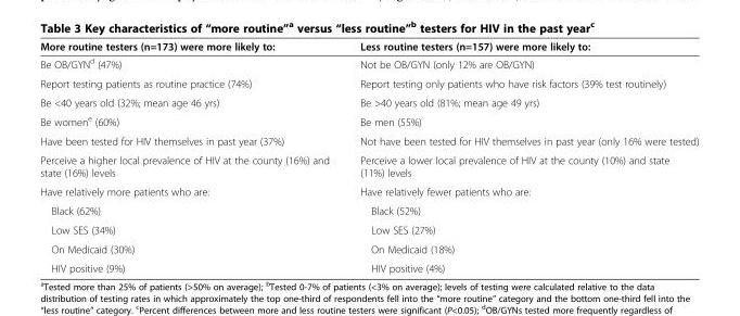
<table><thead><tr><td>More routine testers (n=173) were more likely to:</td><td>Less routine testers (n=157) were more likely to:</td></tr></thead><tbody><tr><td>Be OB/GYN<sup>d</sup> (47%)</td><td>Not be OB/GYN (only 12% are OB/GYN)</td></tr><tr><td>Report testing patients as routine practice (74%)</td><td>Report testing only patients who have risk factors (39% test routinely)</td></tr><tr><td>Be &lt;40 years old (32%; mean age 46 yrs)</td><td>Be &gt;40 years old (81%; mean age 49 yrs)</td></tr><tr><td>Be women<sup>e</sup> (60%)</td><td>Be men (55%)</td></tr><tr><td>Have been tested for HIV themselves in past year (37%)</td><td>Not have been tested for HIV themselves in past year (only 16% were tested)</td></tr><tr><td>Perceive a higher local prevalence of HIV at the county (16%) and state (16%) levels</td><td>Perceive a lower local prevalence of HIV at the county (10%) and state (11%) levels</td></tr><tr><td>Have relatively more patients who are:</td><td>Have relatively fewer patients who are:</td></tr><tr><td>Black (62%)</td><td>Black (52%)</td></tr><tr><td>Low SES (34%)</td><td>Low SES (27%)</td></tr><tr><td>On Medicaid (30%)</td><td>On Medicaid (18%)</td></tr><tr><td>HIV positive (9%)</td><td>HIV positive (4%)</td></tr></tbody></table>